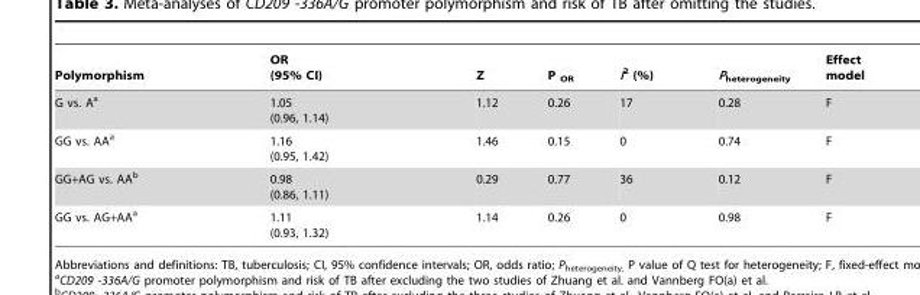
<table><thead><tr><td>Polymorphism</td><td>OR (95% CI)</td><td>Z</td><td>P <sub>OR</sub></td><td>I<sup>2</sup> (%)</td><td>P<sub>heterogeneity</sub></td><td>Effect model</td></tr></thead><tbody><tr><td>G vs. A<sup>a</sup></td><td>1.05 (0.96, 1.14)</td><td>1.12</td><td>0.26</td><td>17</td><td>0.28</td><td>F</td></tr><tr><td>GG vs. AA<sup>a</sup></td><td>1.16 (0.95, 1.42)</td><td>1.46</td><td>0.15</td><td>0</td><td>0.74</td><td>F</td></tr><tr><td>GG+AG vs. AA<sup>b</sup></td><td>0.98 (0.86, 1.11)</td><td>0.29</td><td>0.77</td><td>36</td><td>0.12</td><td>F</td></tr><tr><td>GG vs. AG+AA<sup>a</sup></td><td>1.11 (0.93, 1.32)</td><td>1.14</td><td>0.26</td><td>0</td><td>0.98</td><td>F</td></tr></tbody></table>